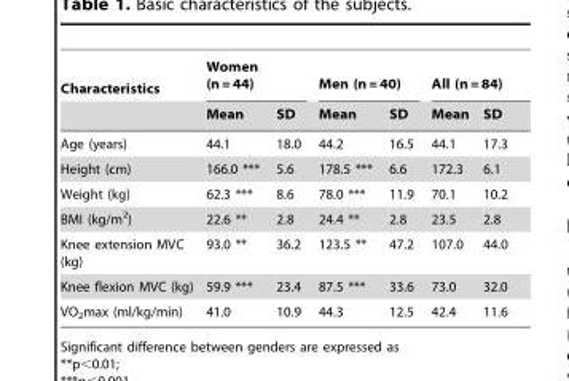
<table><thead><tr><td rowspan="2">Characteristics</td><td colspan="2">Women (n = 44)</td><td colspan="2">Men (n = 40)</td><td colspan="2">All (n = 84)</td></tr><tr><td>Mean</td><td>SD</td><td>Mean</td><td>SD</td><td>Mean</td><td>SD</td></tr></thead><tbody><tr><td>Age (years)</td><td>44.1</td><td>18.0</td><td>44.2</td><td>16.5</td><td>44.1</td><td>17.3</td></tr><tr><td>Height (cm)</td><td>166.0 ***</td><td>5.6</td><td>178.5 ***</td><td>6.6</td><td>172.3</td><td>6.1</td></tr><tr><td>Weight (kg)</td><td>62.3 ***</td><td>8.6</td><td>78.0 ***</td><td>11.9</td><td>70.1</td><td>10.2</td></tr><tr><td>BMI (kg/m<sup>2</sup>)</td><td>22.6 **</td><td>2.8</td><td>24.4 **</td><td>2.8</td><td>23.5</td><td>2.8</td></tr><tr><td>Knee extension MVC (kg)</td><td>93.0 **</td><td>36.2</td><td>123.5 **</td><td>47.2</td><td>107.0</td><td>44.0</td></tr><tr><td>Knee flexion MVC (kg)</td><td>59.9 ***</td><td>23.4</td><td>87.5 ***</td><td>33.6</td><td>73.0</td><td>32.0</td></tr><tr><td>VO<sub>2</sub>max (ml/kg/min)</td><td>41.0</td><td>10.9</td><td>44.3</td><td>12.5</td><td>42.4</td><td>11.6</td></tr></tbody></table>